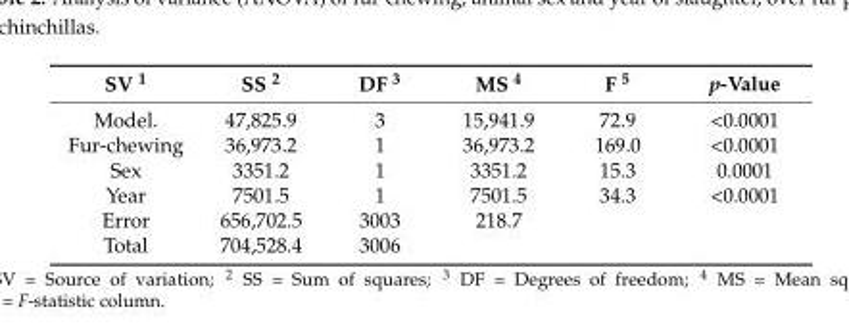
<table><thead><tr><td>SV <sup>1</sup></td><td>SS <sup>2</sup></td><td>DF <sup>3</sup></td><td>MS <sup>4</sup></td><td>F <sup>5</sup></td><td>p-Value</td></tr></thead><tbody><tr><td>Model.</td><td>47,825.9</td><td>3</td><td>15,941.9</td><td>72.9</td><td>&lt;0.0001</td></tr><tr><td>Fur-chewing</td><td>36,973.2</td><td>1</td><td>36,973.2</td><td>169.0</td><td>&lt;0.0001</td></tr><tr><td>Sex</td><td>3351.2</td><td>1</td><td>3351.2</td><td>15.3</td><td>0.0001</td></tr><tr><td>Year</td><td>7501.5</td><td>1</td><td>7501.5</td><td>34.3</td><td>&lt;0.0001</td></tr><tr><td>Error</td><td>656,702.5</td><td>3003</td><td>218.7</td><td></td><td></td></tr><tr><td>Total</td><td>704,528.4</td><td>3006</td><td></td><td></td><td></td></tr></tbody></table>